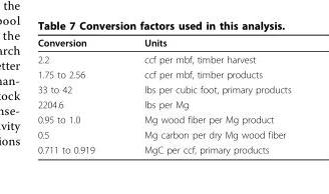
<table><thead><tr><td>Conversion</td><td>Units</td></tr></thead><tbody><tr><td>2.2</td><td>ccf per mbf, timber harvest</td></tr><tr><td>1.75 to 2.56</td><td>ccf per mbf, timber products</td></tr><tr><td>33 to 42</td><td>lbs per cubic foot, primary products</td></tr><tr><td>2204.6</td><td>lbs per Mg</td></tr><tr><td>0.95 to 1.0</td><td>Mg wood fiber per Mg product</td></tr><tr><td>0.5</td><td>Mg carbon per dry Mg wood fiber</td></tr><tr><td>0.711 to 0.919</td><td>MgC per ccf, primary products</td></tr></tbody></table>